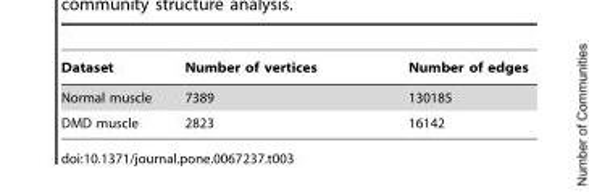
<table><thead><tr><td>Dataset</td><td>Number of vertices</td><td>Number of edges</td></tr></thead><tbody><tr><td>Normal muscle</td><td>7389</td><td>130185</td></tr><tr><td>DMD muscle</td><td>2823</td><td>16142</td></tr></tbody></table>